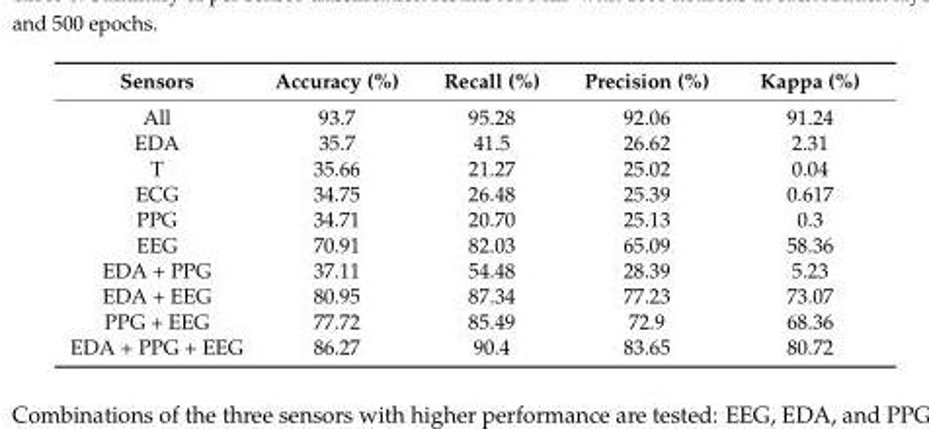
<table><thead><tr><td>Sensors</td><td>Accuracy (%)</td><td>Recall (%)</td><td>Precision (%)</td><td>Kappa (%)</td></tr></thead><tbody><tr><td>All</td><td>93.7</td><td>95.28</td><td>92.06</td><td>91.24</td></tr><tr><td>EDA</td><td>35.7</td><td>41.5</td><td>26.62</td><td>2.31</td></tr><tr><td>T</td><td>35.66</td><td>21.27</td><td>25.02</td><td>0.04</td></tr><tr><td>ECG</td><td>34.75</td><td>26.48</td><td>25.39</td><td>0.617</td></tr><tr><td>PPG</td><td>34.71</td><td>20.70</td><td>25.13</td><td>0.3</td></tr><tr><td>EEG</td><td>70.91</td><td>82.03</td><td>65.09</td><td>58.36</td></tr><tr><td>EDA + PPG</td><td>37.11</td><td>54.48</td><td>28.39</td><td>5.23</td></tr><tr><td>EDA + EEG</td><td>80.95</td><td>87.34</td><td>77.23</td><td>73.07</td></tr><tr><td>PPG + EEG</td><td>77.72</td><td>85.49</td><td>72.9</td><td>68.36</td></tr><tr><td>EDA + PPG + EEG</td><td>86.27</td><td>90.4</td><td>83.65</td><td>80.72</td></tr></tbody></table>